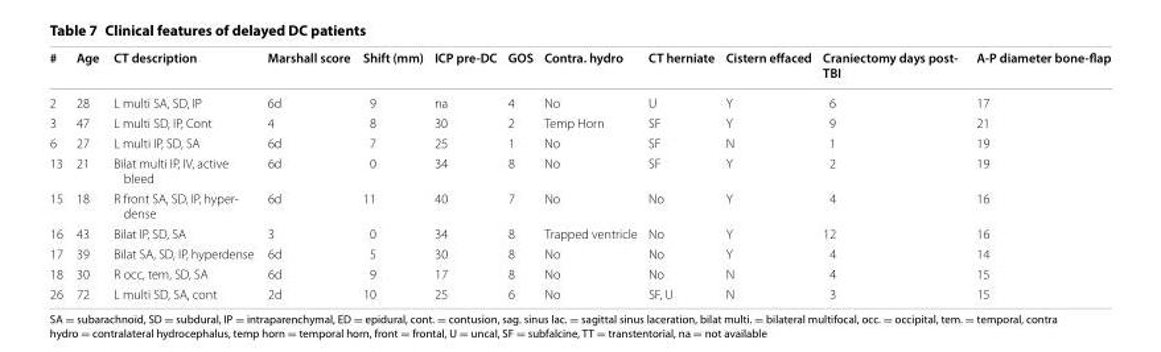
<table><thead><tr><td>#</td><td>Age</td><td>CT description</td><td>Marshall score</td><td>Shift (mm)</td><td>ICP pre-DC</td><td>GOS</td><td>Contra. hydro</td><td>CT herniate</td><td>Cistern effaced</td><td>Craniectomy days post- TBI</td><td>A-P diameter bone-flap</td></tr></thead><tbody><tr><td>2</td><td>28</td><td>L multi SA, SD, IP</td><td>6d</td><td>9</td><td>na</td><td>4</td><td>No</td><td>U</td><td>Y</td><td>6</td><td>17</td></tr><tr><td>3</td><td>47</td><td>L multi SD, IP, Cont</td><td>4</td><td>8</td><td>30</td><td>2</td><td>Temp Horn</td><td>SF</td><td>Y</td><td>9</td><td>21</td></tr><tr><td>6</td><td>27</td><td>L multi IP, SD, SA</td><td>6d</td><td>7</td><td>25</td><td>1</td><td>No</td><td>SF</td><td>N</td><td>1</td><td>19</td></tr><tr><td>13</td><td>21</td><td>Bilat multi IP, IV, active bleed</td><td>6d</td><td>0</td><td>34</td><td>8</td><td>No</td><td>SF</td><td>Y</td><td>2</td><td>19</td></tr><tr><td>15</td><td>18</td><td>R front SA, SD, IP, hyper- dense</td><td>6d</td><td>11</td><td>40</td><td>7</td><td>No</td><td>No</td><td>Y</td><td>4</td><td>16</td></tr><tr><td>16</td><td>43</td><td>Bilat IP, SD, SA</td><td>3</td><td>0</td><td>34</td><td>8</td><td>Trapped ventricle</td><td>No</td><td>Y</td><td>12</td><td>16</td></tr><tr><td>17</td><td>39</td><td>Bilat SA, SD, IP, hyperdense</td><td>6d</td><td>5</td><td>30</td><td>8</td><td>No</td><td>No</td><td>Y</td><td>4</td><td>14</td></tr><tr><td>18</td><td>30</td><td>R occ, tem, SD, SA</td><td>6d</td><td>9</td><td>17</td><td>8</td><td>No</td><td>No</td><td>N</td><td>4</td><td>15</td></tr><tr><td>26</td><td>72</td><td>L multi SD, SA, cont</td><td>2d</td><td>10</td><td>25</td><td>6</td><td>No</td><td>SF, U</td><td>N</td><td>3</td><td>15</td></tr></tbody></table>